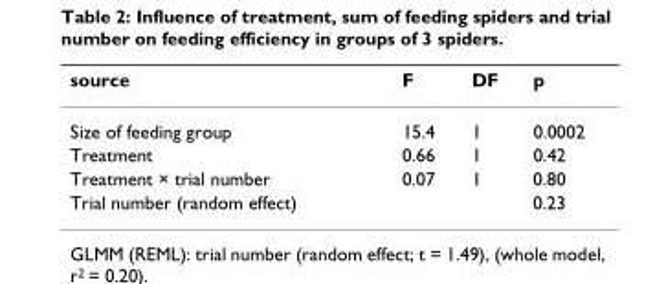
<table><thead><tr><td>source</td><td>F</td><td>DF</td><td>p</td></tr></thead><tbody><tr><td>Size of feeding group</td><td>15.4</td><td>1</td><td>0.0002</td></tr><tr><td>Treatment</td><td>0.66</td><td>1</td><td>0.42</td></tr><tr><td>Treatment × trial number</td><td>0.07</td><td>1</td><td>0.80</td></tr><tr><td>Trial number (random effect)</td><td></td><td></td><td>0.23</td></tr></tbody></table>